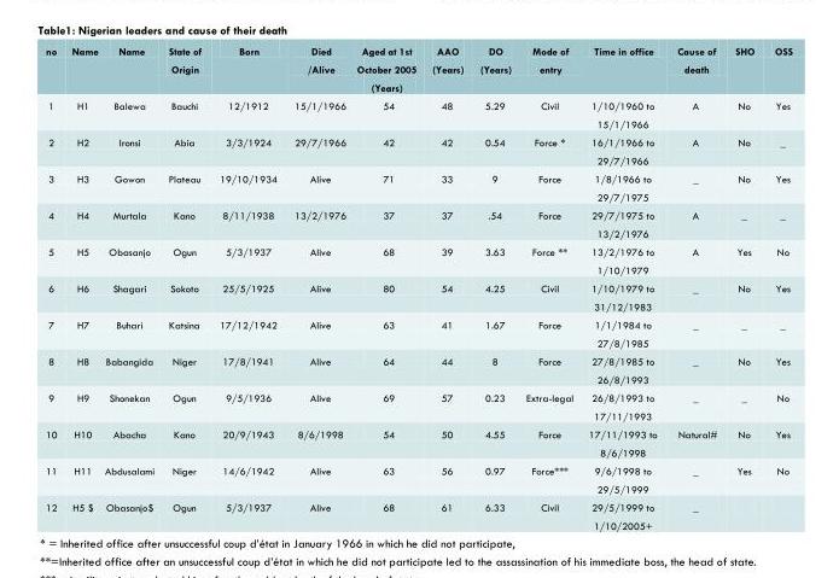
<table><thead><tr><td>no</td><td>Name</td><td>Name</td><td>State of Origin</td><td>Born</td><td>Died /Alive</td><td>Aged at 1st October 2005 (Years)</td><td>AAO (Years)</td><td>DO (Years)</td><td>Mode of entry</td><td>Time in office</td><td>Cause of death</td><td>SHO</td><td>OSS</td></tr></thead><tbody><tr><td>1</td><td>H1</td><td>Balewa</td><td>Bauchi</td><td>12/1912</td><td>15/1/1966</td><td>54</td><td>48</td><td>5.29</td><td>Civil</td><td>1/10/1960 to 15/1/1966</td><td>A</td><td>No</td><td>Yes</td></tr><tr><td>2</td><td>H2</td><td>Ironsi</td><td>Abia</td><td>3/3/1924</td><td>29/7/1966</td><td>42</td><td>42</td><td>0.54</td><td>Force *</td><td>16/1/1966 to 29/7/1966</td><td>A</td><td>No</td><td>_</td></tr><tr><td>3</td><td>H3</td><td>Gowon</td><td>Plateau</td><td>19/10/1934</td><td>Alive</td><td>71</td><td>33</td><td>9</td><td>Force</td><td>1/8/1966 to 29/7/1975</td><td>_</td><td>No</td><td>Yes</td></tr><tr><td>4</td><td>H4</td><td>Murtala</td><td>Kano</td><td>8/11/1938</td><td>13/2/1976</td><td>37</td><td>37</td><td>.54</td><td>Force</td><td>29/7/1975 to 13/2/1976</td><td>A</td><td>_</td><td>_</td></tr><tr><td>5</td><td>H5</td><td>Obasanjo</td><td>Ogun</td><td>5/3/1937</td><td>Alive</td><td>68</td><td>39</td><td>3.63</td><td>Force **</td><td>13/2/1976 to 1/10/1979</td><td>A</td><td>Yes</td><td>No</td></tr><tr><td>6</td><td>H6</td><td>Shagari</td><td>Sokoto</td><td>25/5/1925</td><td>Alive</td><td>80</td><td>54</td><td>4.25</td><td>Civil</td><td>1/10/1979 to 31/12/1983</td><td>_</td><td>No</td><td>Yes</td></tr><tr><td>7</td><td>H7</td><td>Buhari</td><td>Katsina</td><td>17/12/1942</td><td>Alive</td><td>63</td><td>41</td><td>1.67</td><td>Force</td><td>1/1/1984 to 27/8/1985</td><td>_</td><td>_</td><td>_</td></tr><tr><td>8</td><td>H8</td><td>Babangida</td><td>Niger</td><td>17/8/1941</td><td>Alive</td><td>64</td><td>44</td><td>8</td><td>Force</td><td>27/8/1985 to 26/8/1993</td><td>_</td><td>No</td><td>Yes</td></tr><tr><td>9</td><td>H9</td><td>Shonekan</td><td>Ogun</td><td>9/5/1936</td><td>Alive</td><td>69</td><td>57</td><td>0.23</td><td>Extra-legal</td><td>26/8/1993 to 17/11/1993</td><td>_</td><td>_</td><td>No</td></tr><tr><td>10</td><td>H10</td><td>Abacha</td><td>Kano</td><td>20/9/1943</td><td>8/6/1998</td><td>54</td><td>50</td><td>4.55</td><td>Force</td><td>17/11/1993 to 8/6/1998</td><td>Natural#</td><td>No</td><td>Yes</td></tr><tr><td>11</td><td>H11</td><td>Abdusalami</td><td>Niger</td><td>14/6/1942</td><td>Alive</td><td>63</td><td>56</td><td>0.97</td><td>Force***</td><td>9/6/1998 to 29/5/1999</td><td>_</td><td>Yes</td><td>No</td></tr><tr><td>12</td><td>H5 $</td><td>Obasanjo$</td><td>Ogun</td><td>5/3/1937</td><td>Alive</td><td>68</td><td>61</td><td>6.33</td><td>Civil</td><td>29/5/1999 to 1/10/2005+</td><td>_</td><td></td><td></td></tr></tbody></table>